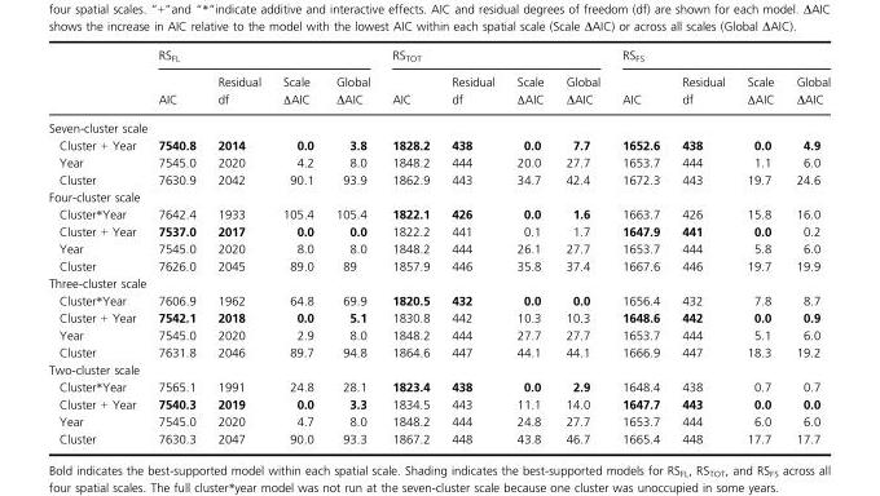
<table><thead><tr><td rowspan="2"></td><td colspan="4">RS<sub>FL</sub></td><td colspan="4">RS<sub>TOT</sub></td><td colspan="4">RS<sub>FS</sub></td></tr><tr><td>AIC</td><td>Residual df</td><td>Scale ΔAIC</td><td>Global ΔAIC</td><td>AIC</td><td>Residual df</td><td>Scale ΔAIC</td><td>Global ΔAIC</td><td>AIC</td><td>Residual df</td><td>Scale ΔAIC</td><td>Global ΔAIC</td></tr></thead><tbody><tr><td colspan="13">Seven-cluster scale</td></tr><tr><td>Cluster + Year</td><td>7540.8</td><td>2014</td><td>0.0</td><td>3.8</td><td>1828.2</td><td>438</td><td>0.0</td><td>7.7</td><td>1652.6</td><td>438</td><td>0.0</td><td>4.9</td></tr><tr><td>Year</td><td>7545.0</td><td>2020</td><td>4.2</td><td>8.0</td><td>1848.2</td><td>444</td><td>20.0</td><td>27.7</td><td>1653.7</td><td>444</td><td>1.1</td><td>6.0</td></tr><tr><td>Cluster</td><td>7630.9</td><td>2042</td><td>90.1</td><td>93.9</td><td>1862.9</td><td>443</td><td>34.7</td><td>42.4</td><td>1672.3</td><td>443</td><td>19.7</td><td>24.6</td></tr><tr><td colspan="13">Four-cluster scale</td></tr><tr><td>Cluster*Year</td><td>7642.4</td><td>1933</td><td>105.4</td><td>105.4</td><td>1822.1</td><td>426</td><td>0.0</td><td>1.6</td><td>1663.7</td><td>426</td><td>15.8</td><td>16.0</td></tr><tr><td>Cluster + Year</td><td>7537.0</td><td>2017</td><td>0.0</td><td>0.0</td><td>1822.2</td><td>441</td><td>0.1</td><td>1.7</td><td>1647.9</td><td>441</td><td>0.0</td><td>0.2</td></tr><tr><td>Year</td><td>7545.0</td><td>2020</td><td>8.0</td><td>8.0</td><td>1848.2</td><td>444</td><td>26.1</td><td>27.7</td><td>1653.7</td><td>444</td><td>5.8</td><td>6.0</td></tr><tr><td>Cluster</td><td>7626.0</td><td>2045</td><td>89.0</td><td>89</td><td>1857.9</td><td>446</td><td>35.8</td><td>37.4</td><td>1667.6</td><td>446</td><td>19.7</td><td>19.9</td></tr><tr><td colspan="13">Three-cluster scale</td></tr><tr><td>Cluster*Year</td><td>7606.9</td><td>1962</td><td>64.8</td><td>69.9</td><td>1820.5</td><td>432</td><td>0.0</td><td>0.0</td><td>1656.4</td><td>432</td><td>7.8</td><td>8.7</td></tr><tr><td>Cluster + Year</td><td>7542.1</td><td>2018</td><td>0.0</td><td>5.1</td><td>1830.8</td><td>442</td><td>10.3</td><td>10.3</td><td>1648.6</td><td>442</td><td>0.0</td><td>0.9</td></tr><tr><td>Year</td><td>7545.0</td><td>2020</td><td>2.9</td><td>8.0</td><td>1848.2</td><td>444</td><td>27.7</td><td>27.7</td><td>1653.7</td><td>444</td><td>5.1</td><td>6.0</td></tr><tr><td>Cluster</td><td>7631.8</td><td>2046</td><td>89.7</td><td>94.8</td><td>1864.6</td><td>447</td><td>44.1</td><td>44.1</td><td>1666.9</td><td>447</td><td>18.3</td><td>19.2</td></tr><tr><td colspan="13">Two-cluster scale</td></tr><tr><td>Cluster*Year</td><td>7565.1</td><td>1991</td><td>24.8</td><td>28.1</td><td>1823.4</td><td>438</td><td>0.0</td><td>2.9</td><td>1648.4</td><td>438</td><td>0.7</td><td>0.7</td></tr><tr><td>Cluster + Year</td><td>7540.3</td><td>2019</td><td>0.0</td><td>3.3</td><td>1834.5</td><td>443</td><td>11.1</td><td>14.0</td><td>1647.7</td><td>443</td><td>0.0</td><td>0.0</td></tr><tr><td>Year</td><td>7545.0</td><td>2020</td><td>4.7</td><td>8.0</td><td>1848.2</td><td>444</td><td>24.8</td><td>27.7</td><td>1653.7</td><td>444</td><td>6.0</td><td>6.0</td></tr><tr><td>Cluster</td><td>7630.3</td><td>2047</td><td>90.0</td><td>93.3</td><td>1867.2</td><td>448</td><td>43.8</td><td>46.7</td><td>1665.4</td><td>448</td><td>17.7</td><td>17.7</td></tr></tbody></table>